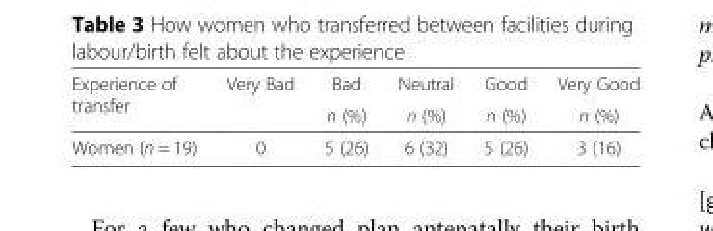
<table><thead><tr><td rowspan="2">Experience of transfer</td><td rowspan="2">Very Bad</td><td rowspan="2">Bad n (%)</td><td rowspan="2">Neutral n (%)</td><td rowspan="2">Good n (%)</td><td rowspan="2">Very Good n (%)</td></tr><tr></tr></thead><tbody><tr><td>Women (n = 19)</td><td>0</td><td>5 (26)</td><td>6 (32)</td><td>5 (26)</td><td>3 (16)</td></tr></tbody></table>